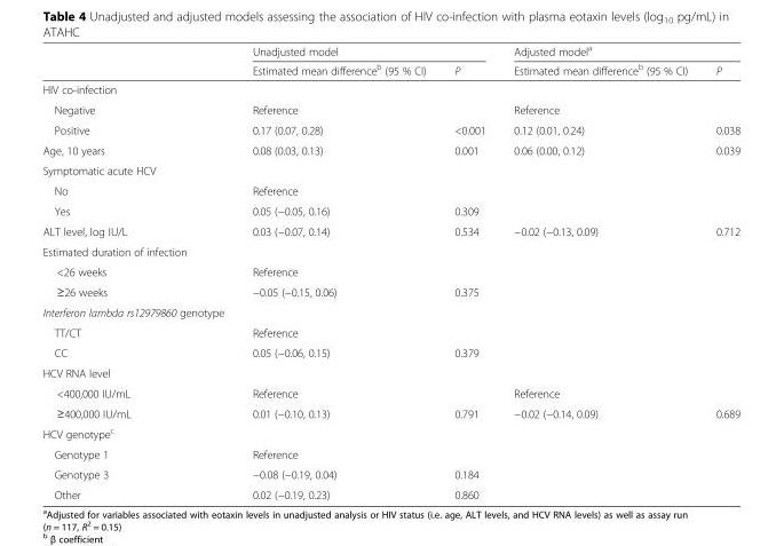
<table><thead><tr><td rowspan="2"></td><td colspan="2">Unadjusted model</td><td colspan="2">Adjusted model<sup>a</sup></td></tr><tr><td>Estimated mean difference<sup>b</sup> (95 % CI)</td><td>P</td><td>Estimated mean difference<sup>b</sup> (95 % CI)</td><td>P</td></tr></thead><tbody><tr><td colspan="5">HIV co-infection</td></tr><tr><td>Negative</td><td>Reference</td><td></td><td>Reference</td><td></td></tr><tr><td>Positive</td><td>0.17 (0.07, 0.28)</td><td>&lt;0.001</td><td>0.12 (0.01, 0.24)</td><td>0.038</td></tr><tr><td>Age, 10 years</td><td>0.08 (0.03, 0.13)</td><td>0.001</td><td>0.06 (0.00, 0.12)</td><td>0.039</td></tr><tr><td colspan="5">Symptomatic acute HCV</td></tr><tr><td>No</td><td>Reference</td><td></td><td></td><td></td></tr><tr><td>Yes</td><td>0.05 (−0.05, 0.16)</td><td>0.309</td><td></td><td></td></tr><tr><td>ALT level, log IU/L</td><td>0.03 (−0.07, 0.14)</td><td>0.534</td><td>−0.02 (−0.13, 0.09)</td><td>0.712</td></tr><tr><td colspan="5">Estimated duration of infection</td></tr><tr><td>&lt;26 weeks</td><td>Reference</td><td></td><td></td><td></td></tr><tr><td>≥26 weeks</td><td>−0.05 (−0.15, 0.06)</td><td>0.375</td><td></td><td></td></tr><tr><td colspan="5">Interferon lambda rs12979860 genotype</td></tr><tr><td>TT/CT</td><td>Reference</td><td></td><td></td><td></td></tr><tr><td>CC</td><td>0.05 (−0.06, 0.15)</td><td>0.379</td><td></td><td></td></tr><tr><td colspan="5">HCV RNA level</td></tr><tr><td>&lt;400,000 IU/mL</td><td>Reference</td><td></td><td>Reference</td><td></td></tr><tr><td>≥400,000 IU/mL</td><td>0.01 (−0.10, 0.13)</td><td>0.791</td><td>−0.02 (−0.14, 0.09)</td><td>0.689</td></tr><tr><td colspan="5">HCV genotype<sup>c</sup></td></tr><tr><td>Genotype 1</td><td>Reference</td><td></td><td></td><td></td></tr><tr><td>Genotype 3</td><td>−0.08 (−0.19, 0.04)</td><td>0.184</td><td></td><td></td></tr><tr><td>Other</td><td>0.02 (−0.19, 0.23)</td><td>0.860</td><td></td><td></td></tr></tbody></table>